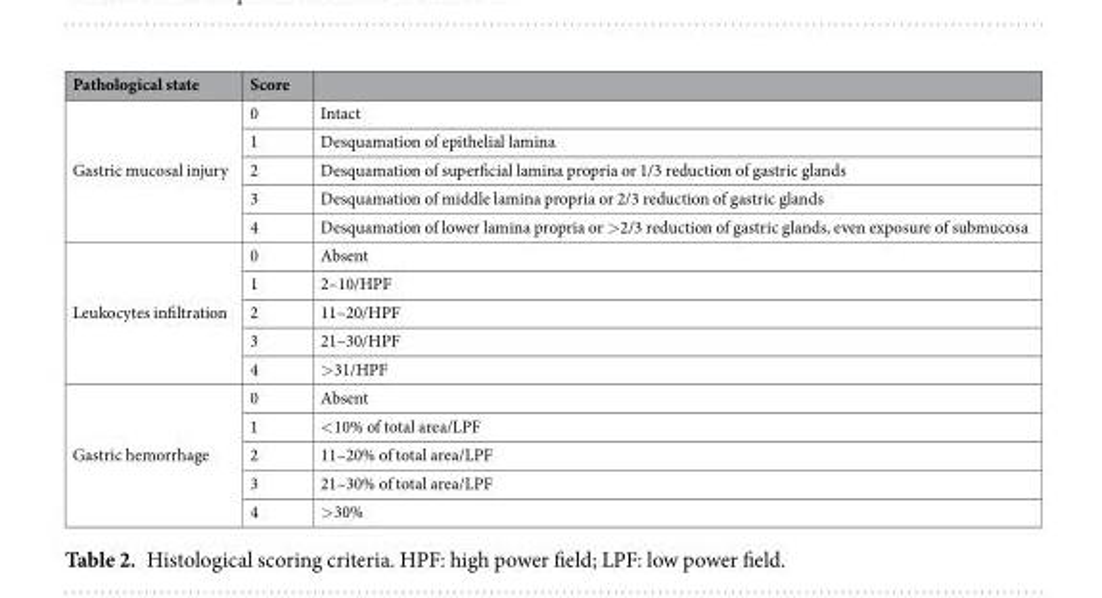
<table><thead><tr><td>Pathological state</td><td>Score</td><td></td></tr></thead><tbody><tr><td rowspan="5">Gastric mucosal injury</td><td>0</td><td>Intact</td></tr><tr><td>1</td><td>Desquamation of epithelial lamina</td></tr><tr><td>2</td><td>Desquamation of superficial lamina propria or 1/3 reduction of gastric glands</td></tr><tr><td>3</td><td>Desquamation of middle lamina propria or 2/3 reduction of gastric glands</td></tr><tr><td>4</td><td>Desquamation of lower lamina propria or &gt;2/3 reduction of gastric glands, even exposure of submucosa</td></tr><tr><td rowspan="5">Leukocytes infiltration</td><td>0</td><td>Absent</td></tr><tr><td>1</td><td>2–10/HPF</td></tr><tr><td>2</td><td>11–20/HPF</td></tr><tr><td>3</td><td>21–30/HPF</td></tr><tr><td>4</td><td>&gt;31/HPF</td></tr><tr><td rowspan="5">Gastric hemorrhage</td><td>0</td><td>Absent</td></tr><tr><td>1</td><td>&lt;10% of total area/LPF</td></tr><tr><td>2</td><td>11–20% of total area/LPF</td></tr><tr><td>3</td><td>21–30% of total area/LPF</td></tr><tr><td>4</td><td>&gt;30%</td></tr></tbody></table>